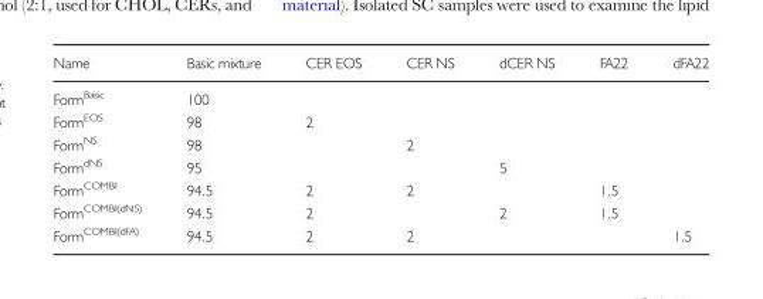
<table><thead><tr><td>Name</td><td>Basic mixture</td><td>CER EOS</td><td>CER NS</td><td>dCER NS</td><td>FA22</td><td>dFA22</td></tr></thead><tbody><tr><td>Form<sup>Basic</sup></td><td>100</td><td></td><td></td><td></td><td></td><td></td></tr><tr><td>Form<sup>EOS</sup></td><td>98</td><td>2</td><td></td><td></td><td></td><td></td></tr><tr><td>Form<sup>NS</sup></td><td>98</td><td></td><td>2</td><td></td><td></td><td></td></tr><tr><td>Form<sup>dNS</sup></td><td>95</td><td></td><td></td><td>5</td><td></td><td></td></tr><tr><td>Form<sup>COMBI</sup></td><td>94.5</td><td>2</td><td>2</td><td></td><td>1.5</td><td></td></tr><tr><td>Form<sup>COMBI(dNS)</sup></td><td>94.5</td><td>2</td><td></td><td>2</td><td>1.5</td><td></td></tr><tr><td>Form<sup>COMBI(dFA)</sup></td><td>94.5</td><td>2</td><td>2</td><td></td><td></td><td>1.5</td></tr></tbody></table>